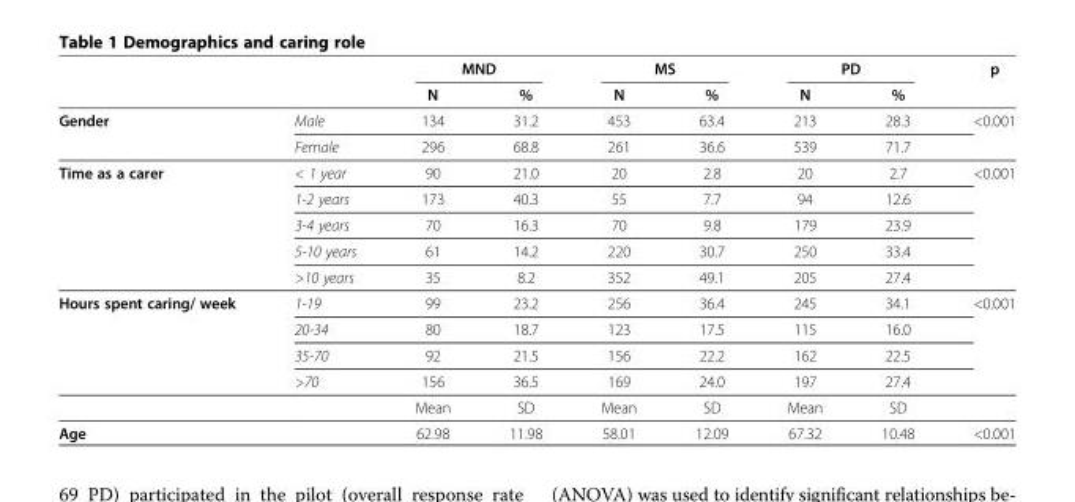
<table><thead><tr><td rowspan="2"></td><td rowspan="2"></td><td colspan="2">MND</td><td colspan="2">MS</td><td colspan="2">PD</td><td rowspan="2">p</td></tr><tr><td>N</td><td>%</td><td>N</td><td>%</td><td>N</td><td>%</td></tr></thead><tbody><tr><td rowspan="2">Gender</td><td>Male</td><td>134</td><td>31.2</td><td>453</td><td>63.4</td><td>213</td><td>28.3</td><td rowspan="2">&lt;0.001</td></tr><tr><td>Female</td><td>296</td><td>68.8</td><td>261</td><td>36.6</td><td>539</td><td>71.7</td></tr><tr><td rowspan="5">Time as a carer</td><td>&lt; 1 year</td><td>90</td><td>21.0</td><td>20</td><td>2.8</td><td>20</td><td>2.7</td><td rowspan="5">&lt;0.001</td></tr><tr><td>1-2 years</td><td>173</td><td>40.3</td><td>55</td><td>7.7</td><td>94</td><td>12.6</td></tr><tr><td>3-4 years</td><td>70</td><td>16.3</td><td>70</td><td>9.8</td><td>179</td><td>23.9</td></tr><tr><td>5-10 years</td><td>61</td><td>14.2</td><td>220</td><td>30.7</td><td>250</td><td>33.4</td></tr><tr><td>&gt;10 years</td><td>35</td><td>8.2</td><td>352</td><td>49.1</td><td>205</td><td>27.4</td></tr><tr><td rowspan="5">Hours spent caring/ week</td><td>1-19</td><td>99</td><td>23.2</td><td>256</td><td>36.4</td><td>245</td><td>34.1</td><td rowspan="4">&lt;0.001</td></tr><tr><td>20-34</td><td>80</td><td>18.7</td><td>123</td><td>17.5</td><td>115</td><td>16.0</td></tr><tr><td>35-70</td><td>92</td><td>21.5</td><td>156</td><td>22.2</td><td>162</td><td>22.5</td></tr><tr><td>&gt;70</td><td>156</td><td>36.5</td><td>169</td><td>24.0</td><td>197</td><td>27.4</td></tr><tr><td></td><td>Mean</td><td>SD</td><td>Mean</td><td>SD</td><td>Mean</td><td>SD</td><td></td></tr><tr><td>Age</td><td></td><td>62.98</td><td>11.98</td><td>58.01</td><td>12.09</td><td>67.32</td><td>10.48</td><td>&lt;0.001</td></tr></tbody></table>